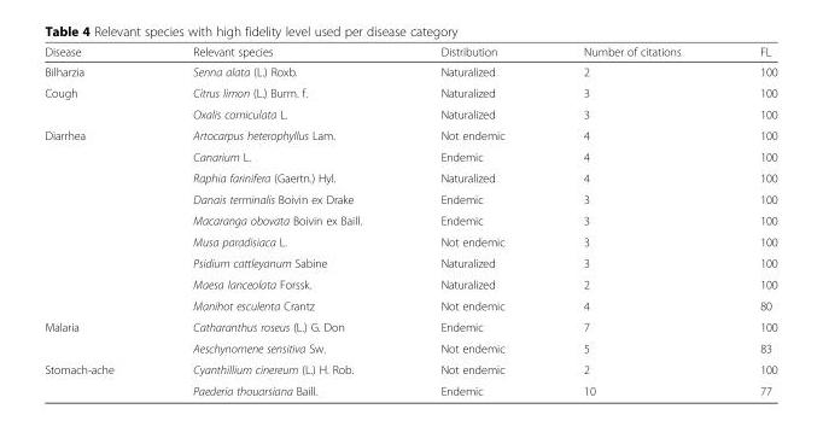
<table><thead><tr><td>Disease</td><td>Relevant species</td><td>Distribution</td><td>Number of citations</td><td>FL</td></tr></thead><tbody><tr><td>Bilharzia</td><td>Senna alata (L.) Roxb.</td><td>Naturalized</td><td>2</td><td>100</td></tr><tr><td rowspan="2">Cough</td><td>Citrus limon (L.) Burm. f.</td><td>Naturalized</td><td>3</td><td>100</td></tr><tr><td>Oxalis corniculata L.</td><td>Naturalized</td><td>3</td><td>100</td></tr><tr><td rowspan="9">Diarrhea</td><td>Artocarpus heterophyllus Lam.</td><td>Not endemic</td><td>4</td><td>100</td></tr><tr><td>Canarium L.</td><td>Endemic</td><td>4</td><td>100</td></tr><tr><td>Raphia farinifera (Gaertn.) Hyl.</td><td>Naturalized</td><td>4</td><td>100</td></tr><tr><td>Danais terminalis Boivin ex Drake</td><td>Endemic</td><td>3</td><td>100</td></tr><tr><td>Macaranga obovata Boivin ex Baill.</td><td>Endemic</td><td>3</td><td>100</td></tr><tr><td>Musa paradisiaca L.</td><td>Not endemic</td><td>3</td><td>100</td></tr><tr><td>Psidium cattleyanum Sabine</td><td>Naturalized</td><td>3</td><td>100</td></tr><tr><td>Maesa lanceolata Forssk.</td><td>Naturalized</td><td>2</td><td>100</td></tr><tr><td>Manihot esculenta Crantz</td><td>Not endemic</td><td>4</td><td>80</td></tr><tr><td rowspan="2">Malaria</td><td>Catharanthus roseus (L.) G. Don</td><td>Endemic</td><td>7</td><td>100</td></tr><tr><td>Aeschynomene sensitiva Sw.</td><td>Not endemic</td><td>5</td><td>83</td></tr><tr><td rowspan="2">Stomach-ache</td><td>Cyanthillium cinereum (L.) H. Rob.</td><td>Not endemic</td><td>2</td><td>100</td></tr><tr><td>Paederia thouarsiana Baill.</td><td>Endemic</td><td>10</td><td>77</td></tr></tbody></table>